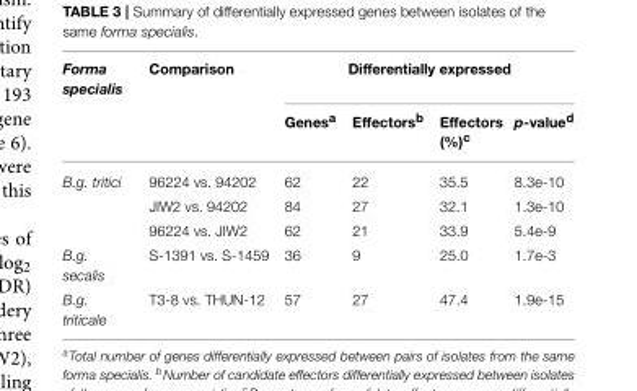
<table><thead><tr><td rowspan="2">Forma specialis</td><td rowspan="2">Comparison</td><td colspan="4">Differentially expressed</td></tr><tr><td>Genes<sup>a</sup></td><td>Effectors<sup>b</sup></td><td>Effectors (%)<sup>c</sup></td><td>p-value<sup>d</sup></td></tr></thead><tbody><tr><td rowspan="3">B.g. tritici</td><td>96224 vs. 94202</td><td>62</td><td>22</td><td>35.5</td><td>8.3e-10</td></tr><tr><td>JIW2 vs. 94202</td><td>84</td><td>27</td><td>32.1</td><td>1.3e-10</td></tr><tr><td>96224 vs. JIW2</td><td>62</td><td>21</td><td>33.9</td><td>5.4e-9</td></tr><tr><td>B.g. secalis</td><td>S-1391 vs. S-1459</td><td>36</td><td>9</td><td>25.0</td><td>1.7e-3</td></tr><tr><td>B.g. triticale</td><td>T3-8 vs. THUN-12</td><td>57</td><td>27</td><td>47.4</td><td>1.9e-15</td></tr></tbody></table>